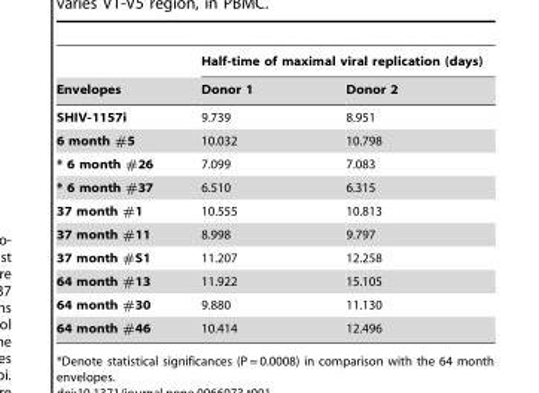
<table><thead><tr><td rowspan="2">Envelopes</td><td colspan="2">Half-time of maximal viral replication (days)</td></tr><tr><td>Donor 1</td><td>Donor 2</td></tr></thead><tbody><tr><td>SHIV-1157i</td><td>9.739</td><td>8.951</td></tr><tr><td>6 month #5</td><td>10.032</td><td>10.798</td></tr><tr><td>* 6 month #26</td><td>7.099</td><td>7.083</td></tr><tr><td>* 6 month #37</td><td>6.510</td><td>6.315</td></tr><tr><td>37 month #1</td><td>10.555</td><td>10.813</td></tr><tr><td>37 month #11</td><td>8.998</td><td>9.797</td></tr><tr><td>37 month #S1</td><td>11.207</td><td>12.258</td></tr><tr><td>64 month #13</td><td>11.922</td><td>15.105</td></tr><tr><td>64 month #30</td><td>9.880</td><td>11.130</td></tr><tr><td>64 month #46</td><td>10.414</td><td>12.496</td></tr></tbody></table>